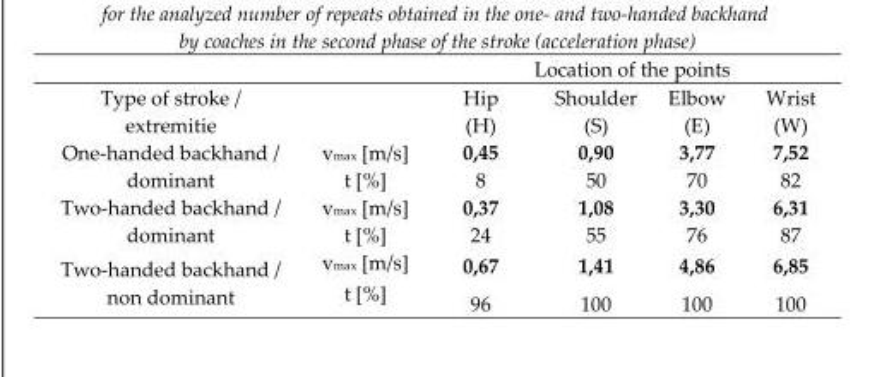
<table><thead><tr><td rowspan="2">Type of stroke / extremitie</td><td rowspan="2"></td><td colspan="4">Location of the points</td></tr><tr><td>Hip (H)</td><td>Shoulder (S)</td><td>Elbow (E)</td><td>Wrist (W)</td></tr></thead><tbody><tr><td rowspan="2">One-handed backhand / dominant</td><td>v<sub>max</sub> [m/s]</td><td>0,45</td><td>0,90</td><td>3,77</td><td>7,52</td></tr><tr><td>t [%]</td><td>8</td><td>50</td><td>70</td><td>82</td></tr><tr><td rowspan="2">Two-handed backhand / dominant</td><td>v<sub>max</sub> [m/s]</td><td>0,37</td><td>1,08</td><td>3,30</td><td>6,31</td></tr><tr><td>t [%]</td><td>24</td><td>55</td><td>76</td><td>87</td></tr><tr><td rowspan="2">Two-handed backhand / non dominant</td><td>v<sub>max</sub> [m/s]</td><td>0,67</td><td>1,41</td><td>4,86</td><td>6,85</td></tr><tr><td>t [%]</td><td>96</td><td>100</td><td>100</td><td>100</td></tr></tbody></table>